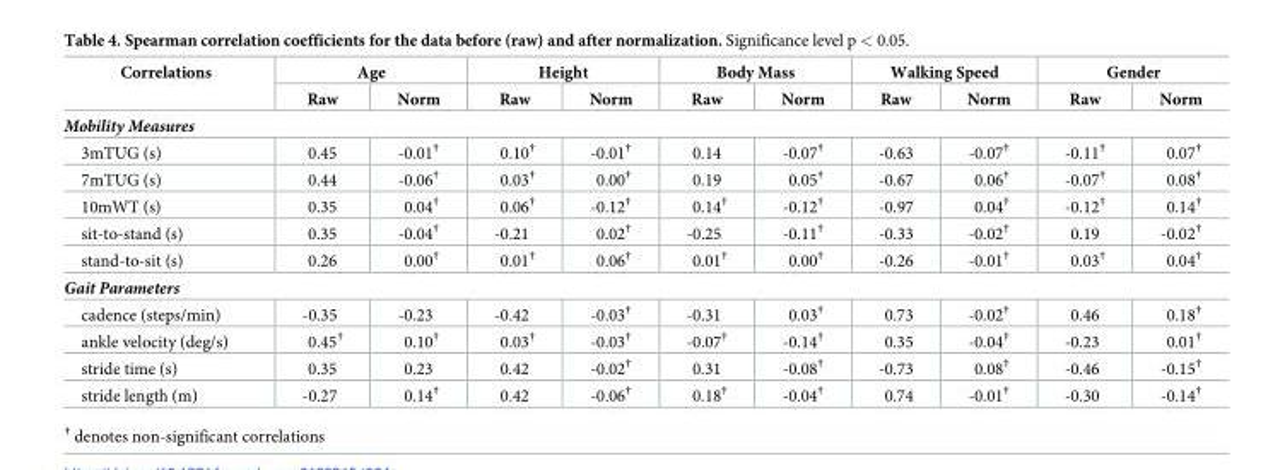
<table><thead><tr><td rowspan="2">Correlations</td><td colspan="2">Age</td><td colspan="2">Height</td><td colspan="2">Body Mass</td><td colspan="2">Walking Speed</td><td colspan="2">Gender</td></tr><tr><td>Raw</td><td>Norm</td><td>Raw</td><td>Norm</td><td>Raw</td><td>Norm</td><td>Raw</td><td>Norm</td><td>Raw</td><td>Norm</td></tr></thead><tbody><tr><td colspan="11">Mobility Measures</td></tr><tr><td>3mTUG (s)</td><td>0.45</td><td>-0.01<sup>†</sup></td><td>0.10<sup>†</sup></td><td>-0.01<sup>†</sup></td><td>0.14</td><td>-0.07<sup>†</sup></td><td>-0.63</td><td>-0.07<sup>†</sup></td><td>-0.11<sup>†</sup></td><td>0.07<sup>†</sup></td></tr><tr><td>7mTUG (s)</td><td>0.44</td><td>-0.06<sup>†</sup></td><td>0.03<sup>†</sup></td><td>0.00<sup>†</sup></td><td>0.19</td><td>0.05<sup>†</sup></td><td>-0.67</td><td>0.06<sup>†</sup></td><td>-0.07<sup>†</sup></td><td>0.08<sup>†</sup></td></tr><tr><td>10mWT (s)</td><td>0.35</td><td>0.04<sup>†</sup></td><td>0.06<sup>†</sup></td><td>-0.12<sup>†</sup></td><td>0.14<sup>†</sup></td><td>-0.12<sup>†</sup></td><td>-0.97</td><td>0.04<sup>†</sup></td><td>-0.12<sup>†</sup></td><td>0.14<sup>†</sup></td></tr><tr><td>sit-to-stand (s)</td><td>0.35</td><td>-0.04<sup>†</sup></td><td>-0.21</td><td>0.02<sup>†</sup></td><td>-0.25</td><td>-0.11<sup>†</sup></td><td>-0.33</td><td>-0.02<sup>†</sup></td><td>0.19</td><td>-0.02<sup>†</sup></td></tr><tr><td>stand-to-sit (s)</td><td>0.26</td><td>0.00<sup>†</sup></td><td>0.01<sup>†</sup></td><td>0.06<sup>†</sup></td><td>0.01<sup>†</sup></td><td>0.00<sup>†</sup></td><td>-0.26</td><td>-0.01<sup>†</sup></td><td>0.03<sup>†</sup></td><td>0.04<sup>†</sup></td></tr><tr><td colspan="11">Gait Parameters</td></tr><tr><td>cadence (steps/min)</td><td>-0.35</td><td>-0.23</td><td>-0.42</td><td>-0.03<sup>†</sup></td><td>-0.31</td><td>0.03<sup>†</sup></td><td>0.73</td><td>-0.02<sup>†</sup></td><td>0.46</td><td>0.18<sup>†</sup></td></tr><tr><td>ankle velocity (deg/s)</td><td>0.45<sup>†</sup></td><td>0.10<sup>†</sup></td><td>0.03<sup>†</sup></td><td>-0.03<sup>†</sup></td><td>-0.07<sup>†</sup></td><td>-0.14<sup>†</sup></td><td>0.35</td><td>-0.04<sup>†</sup></td><td>-0.23</td><td>0.01<sup>†</sup></td></tr><tr><td>stride time (s)</td><td>0.35</td><td>0.23</td><td>0.42</td><td>-0.02<sup>†</sup></td><td>0.31</td><td>-0.08<sup>†</sup></td><td>-0.73</td><td>0.08<sup>†</sup></td><td>-0.46</td><td>-0.15<sup>†</sup></td></tr><tr><td>stride length (m)</td><td>-0.27</td><td>0.14<sup>†</sup></td><td>0.42</td><td>-0.06<sup>†</sup></td><td>0.18<sup>†</sup></td><td>-0.04<sup>†</sup></td><td>0.74</td><td>-0.01<sup>†</sup></td><td>-0.30</td><td>-0.14<sup>†</sup></td></tr></tbody></table>